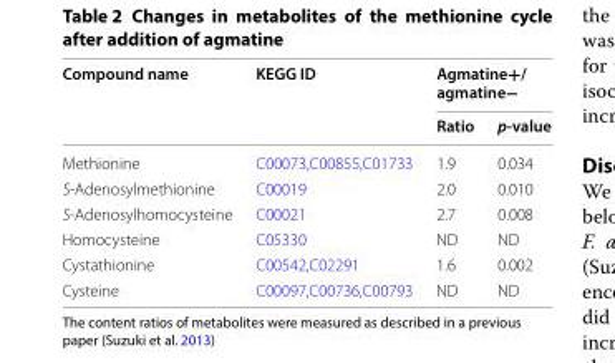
<table><thead><tr><td rowspan="2">Compound name</td><td rowspan="2">KEGG ID</td><td colspan="2">Agmatine+/ agmatine−</td></tr><tr><td>Ratio</td><td>p-value</td></tr></thead><tbody><tr><td>Methionine</td><td>C0007 3,C0085 5,C0173 3</td><td>1.9</td><td>0.034</td></tr><tr><td>S-Adenosylmethionine</td><td>C0001 9</td><td>2.0</td><td>0.010</td></tr><tr><td>S-Adenosylhomocysteine</td><td>C0002 1</td><td>2.7</td><td>0.008</td></tr><tr><td>Homocysteine</td><td>C0533 0</td><td>ND</td><td>ND</td></tr><tr><td>Cystathionine</td><td>C0054 2,C0229 1</td><td>1.6</td><td>0.002</td></tr><tr><td>Cysteine</td><td>C0009 7,C0073 6,C0079 3</td><td>ND</td><td>ND</td></tr></tbody></table>